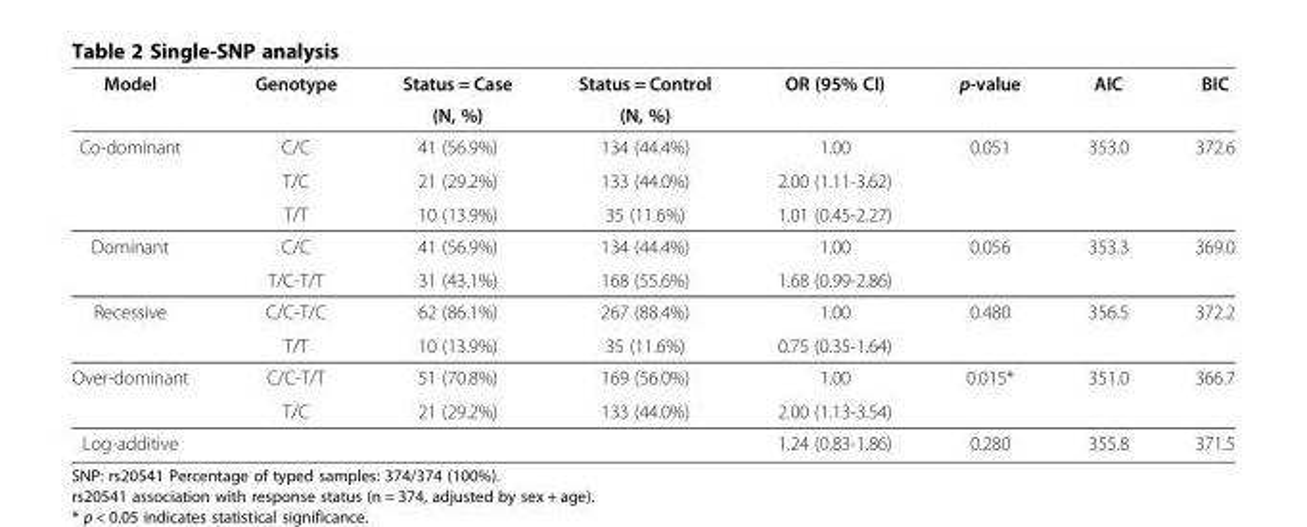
<table><thead><tr><td rowspan="2">Model</td><td rowspan="2">Genotype</td><td rowspan="2">Status = Case (N, %)</td><td rowspan="2">Status = Control (N, %)</td><td rowspan="2">OR (95% CI)</td><td rowspan="2">p-value</td><td rowspan="2">AIC</td><td rowspan="2">BIC</td></tr><tr></tr></thead><tbody><tr><td rowspan="3">Co-dominant</td><td>C/C</td><td>41 (56.9%)</td><td>134 (44.4%)</td><td>1.00</td><td>0.051</td><td>353.0</td><td>372.6</td></tr><tr><td>T/C</td><td>21 (29.2%)</td><td>133 (44.0%)</td><td>2.00 (1.11-3.62)</td><td></td><td></td><td></td></tr><tr><td>T/T</td><td>10 (13.9%)</td><td>35 (11.6%)</td><td>1.01 (0.45-2.27)</td><td></td><td></td><td></td></tr><tr><td rowspan="2">Dominant</td><td>C/C</td><td>41 (56.9%)</td><td>134 (44.4%)</td><td>1.00</td><td>0.056</td><td>353.3</td><td>369.0</td></tr><tr><td>T/C-T/T</td><td>31 (43.1%)</td><td>168 (55.6%)</td><td>1.68 (0.99-2.86)</td><td></td><td></td><td></td></tr><tr><td rowspan="2">Recessive</td><td>C/C-T/C</td><td>62 (86.1%)</td><td>267 (88.4%)</td><td>1.00</td><td>0.480</td><td>356.5</td><td>372.2</td></tr><tr><td>T/T</td><td>10 (13.9%)</td><td>35 (11.6%)</td><td>0.75 (0.35-1.64)</td><td></td><td></td><td></td></tr><tr><td rowspan="2">Over-dominant</td><td>C/C-T/T</td><td>51 (70.8%)</td><td>169 (56.0%)</td><td>1.00</td><td>0.015*</td><td>351.0</td><td>366.7</td></tr><tr><td>T/C</td><td>21 (29.2%)</td><td>133 (44.0%)</td><td>2.00 (1.13-3.54)</td><td></td><td></td><td></td></tr><tr><td>Log-additive</td><td></td><td></td><td></td><td>1.24 (0.83-1.86)</td><td>0.280</td><td>355.8</td><td>371.5</td></tr></tbody></table>